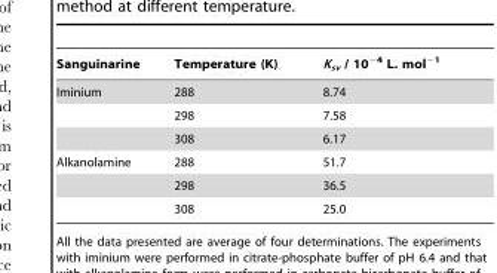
<table><thead><tr><td>Sanguinarine</td><td>Temperature (K)</td><td>K<sub>sv</sub> / 10<sup>−4</sup> L. mol<sup>−1</sup></td></tr></thead><tbody><tr><td rowspan="3">Iminium</td><td>288</td><td>8.74</td></tr><tr><td>298</td><td>7.58</td></tr><tr><td>308</td><td>6.17</td></tr><tr><td rowspan="3">Alkanolamine</td><td>288</td><td>51.7</td></tr><tr><td>298</td><td>36.5</td></tr><tr><td>308</td><td>25.0</td></tr></tbody></table>